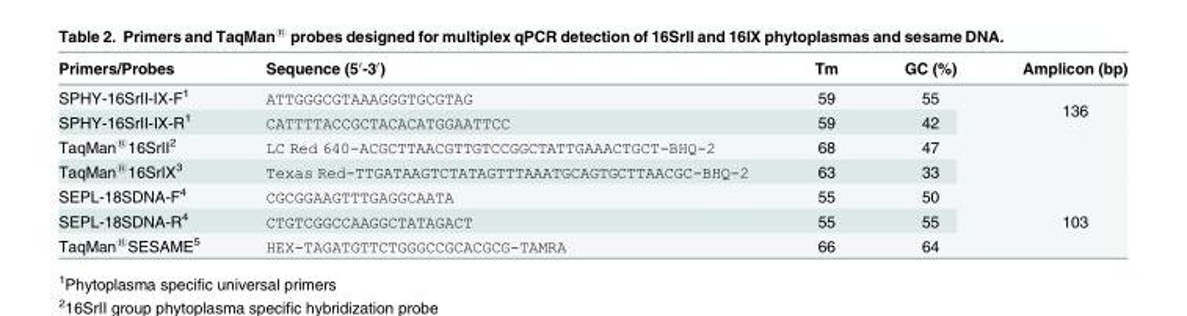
<table><thead><tr><td>Primers/Probes</td><td>Sequence (5′-3′)</td><td>Tm</td><td>GC (%)</td><td>Amplicon (bp)</td></tr></thead><tbody><tr><td>SPHY-16SrII-IX-F<sup>1</sup></td><td>ATTGGGCGTAAAGGGTGCGTAG</td><td>59</td><td>55</td><td rowspan="2">136</td></tr><tr><td>SPHY-16SrII-IX-R<sup>1</sup></td><td>CATTTTACCGCTACACATGGAATTCC</td><td>59</td><td>42</td></tr><tr><td>TaqMan<sup>®</sup>16SrII<sup>2</sup></td><td>LC Red 640-ACGCTTAACGTTGTCCGGCTATTGAAACTGCT-BHQ-2</td><td>68</td><td>47</td><td rowspan="2"></td></tr><tr><td>TaqMan<sup>®</sup>16SrIX<sup>3</sup></td><td>Texas Red-TTGATAAGTCTATAGTTTAAATGCAGTGCTTAACGC-BHQ-2</td><td>63</td><td>33</td></tr><tr><td>SEPL-18SDNA-F<sup>4</sup></td><td>CGCGGAAGTTTGAGGCAATA</td><td>55</td><td>50</td><td rowspan="3">103</td></tr><tr><td>SEPL-18SDNA-R<sup>4</sup></td><td>CTGTCGGCCAAGGCTATAGACT</td><td>55</td><td>55</td></tr><tr><td>TaqMan<sup>®</sup>SESAME<sup>5</sup></td><td>HEX-TAGATGTTCTGGGCCGCACGCG-TAMRA</td><td>66</td><td>64</td></tr></tbody></table>